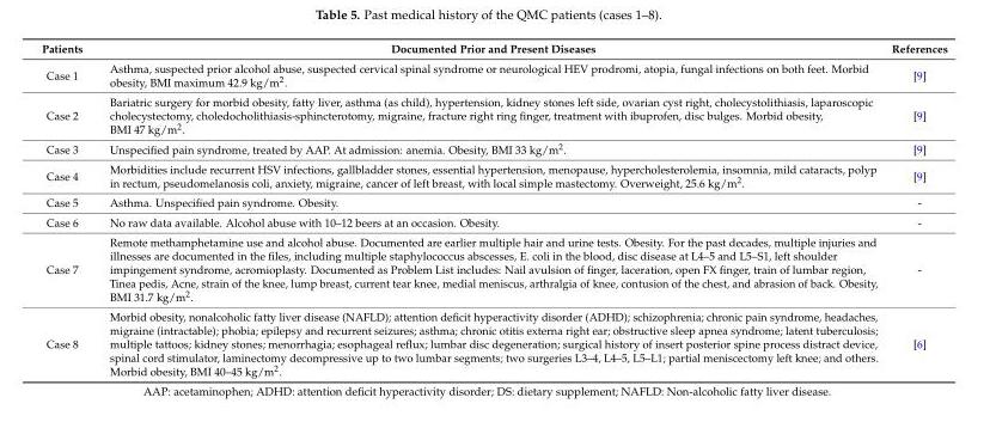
<table><thead><tr><td>Patients</td><td>Documented Prior and Present Diseases</td><td>References</td></tr></thead><tbody><tr><td>Case 1</td><td>Asthma, suspected prior alcohol abuse, suspected cervical spinal syndrome or neurological HEV prodromi, atopia, fungal infections on both feet. Morbid obesity, BMI maximum 42.9 kg/m<sup>2</sup>.</td><td>[9]</td></tr><tr><td>Case 2</td><td>Bariatric surgery for morbid obesity, fatty liver, asthma (as child), hypertension, kidney stones left side, ovarian cyst right, cholecystolithiasis, laparoscopic cholecystectomy, choledocholithiasis-sphincterotomy, migraine, fracture right ring finger, treatment with ibuprofen, disc bulges. Morbid obesity, BMI 47 kg/m<sup>2</sup>.</td><td>[9]</td></tr><tr><td>Case 3</td><td>Unspecified pain syndrome, treated by AAP. At admission: anemia. Obesity, BMI 33 kg/m<sup>2</sup>.</td><td>[9]</td></tr><tr><td>Case 4</td><td>Morbidities include recurrent HSV infections, gallbladder stones, essential hypertension, menopause, hypercholesterolemia, insomnia, mild cataracts, polyp in rectum, pseudomelanosis coli, anxiety, migraine, cancer of left breast, with local simple mastectomy. Overweight, 25.6 kg/m<sup>2</sup>.</td><td>[9]</td></tr><tr><td>Case 5</td><td>Asthma. Unspecified pain syndrome. Obesity.</td><td>-</td></tr><tr><td>Case 6</td><td>No raw data available. Alcohol abuse with 10–12 beers at an occasion. Obesity.</td><td>-</td></tr><tr><td>Case 7</td><td>Remote methamphetamine use and alcohol abuse. Documented are earlier multiple hair and urine tests. Obesity. For the past decades, multiple injuries and illnesses are documented in the files, including multiple staphylococcus abscesses, E. coli in the blood, disc disease at L4–5 and L5–S1, left shoulder impingement syndrome, acromioplasty. Documented as Problem List includes: Nail avulsion of finger, laceration, open FX finger, train of lumbar region, Tinea pedis, Acne, strain of the knee, lump breast, current tear knee, medial meniscus, arthralgia of knee, contusion of the chest, and abrasion of back. Obesity, BMI 31.7 kg/m<sup>2</sup>.</td><td>-</td></tr><tr><td>Case 8</td><td>Morbid obesity, nonalcoholic fatty liver disease (NAFLD); attention deficit hyperactivity disorder (ADHD); schizophrenia; chronic pain syndrome, headaches, migraine (intractable); phobia; epilepsy and recurrent seizures; asthma; chronic otitis externa right ear; obstructive sleep apnea syndrome; latent tuberculosis; multiple tattoos; kidney stones; menorrhagia; esophageal reflux; lumbar disc degeneration; surgical history of insert posterior spine process distract device, spinal cord stimulator, laminectomy decompressive up to two lumbar segments; two surgeries L3–4, L4–5, L5–L1; partial meniscectomy left knee; and others. Morbid obesity, BMI 40–45 kg/m<sup>2</sup>.</td><td>[6]</td></tr></tbody></table>